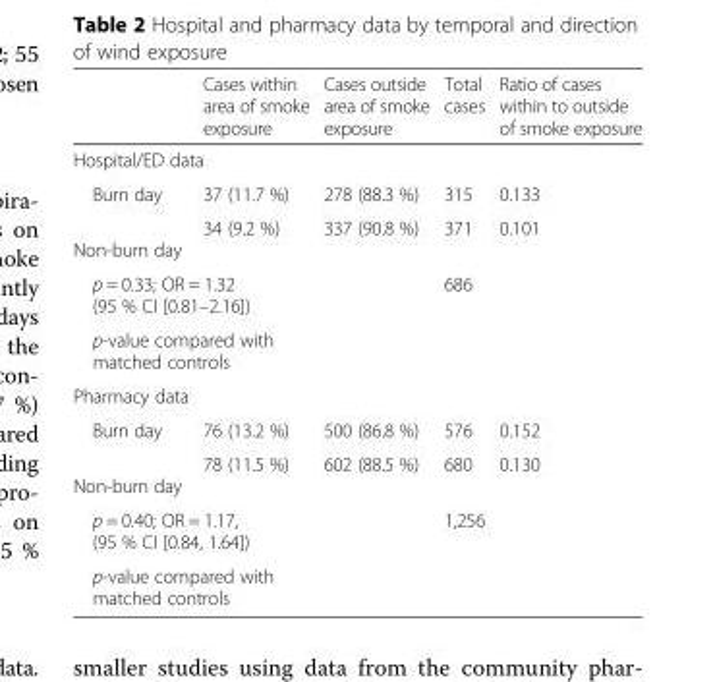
<table><thead><tr><td></td><td>Cases within area of smoke exposure</td><td>Cases outside area of smoke exposure</td><td>Total cases</td><td>Ratio of cases within to outside of smoke exposure</td></tr></thead><tbody><tr><td colspan="5">Hospital/ED data</td></tr><tr><td>Burn day</td><td>37 (11.7 %)</td><td>278 (88.3 %)</td><td>315</td><td>0.133</td></tr><tr><td>Non-burn day</td><td>34 (9.2 %)</td><td>337 (90.8 %)</td><td>371</td><td>0.101</td></tr><tr><td colspan="2">p = 0.33; OR = 1.32 (95 % CI [0.81–2.16])</td><td></td><td>686</td><td></td></tr><tr><td colspan="5">p-value compared with matched controls</td></tr><tr><td colspan="5">Pharmacy data</td></tr><tr><td>Burn day</td><td>76 (13.2 %)</td><td>500 (86.8 %)</td><td>576</td><td>0.152</td></tr><tr><td>Non-burn day</td><td>78 (11.5 %)</td><td>602 (88.5 %)</td><td>680</td><td>0.130</td></tr><tr><td colspan="2">p = 0.40; OR = 1.17, (95 % CI [0.84, 1.64])</td><td></td><td>1,256</td><td></td></tr><tr><td colspan="2">p-value compared with matched controls</td><td></td><td></td><td></td></tr></tbody></table>